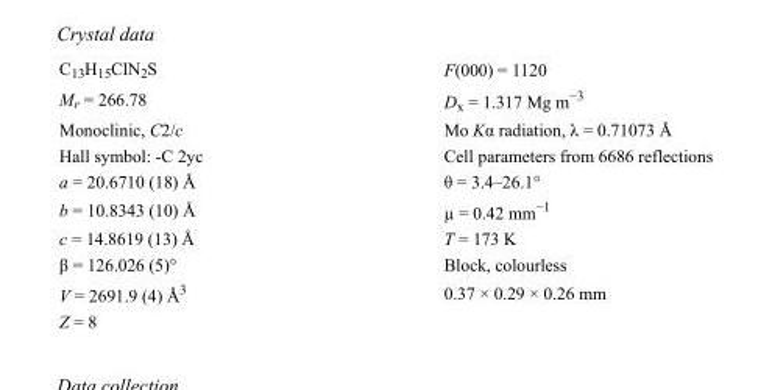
<table><tbody><tr><td>C<sub>13</sub>H<sub>15</sub>ClN<sub>2</sub>S</td><td>F(000) = 1120</td></tr><tr><td>M<sub>r</sub> = 266.78</td><td>D<sub>x</sub> = 1.317 Mg m<sup>−3</sup></td></tr><tr><td>Monoclinic, C2/c</td><td>Mo Kα radiation, λ = 0.71073 Å</td></tr><tr><td>Hall symbol: -C 2yc</td><td>Cell parameters from 6686 reflections</td></tr><tr><td>a = 20.6710 (18) Å</td><td>θ = 3.4–26.1°</td></tr><tr><td>b = 10.8343 (10) Å</td><td>µ = 0.42 mm<sup>−1</sup></td></tr><tr><td>c = 14.8619 (13) Å</td><td>T = 173 K</td></tr><tr><td>β = 126.026 (5)°</td><td>Block, colourless</td></tr><tr><td>V = 2691.9 (4) Å<sup>3</sup></td><td>0.37 × 0.29 × 0.26 mm</td></tr><tr><td>Z = 8</td><td></td></tr></tbody></table>